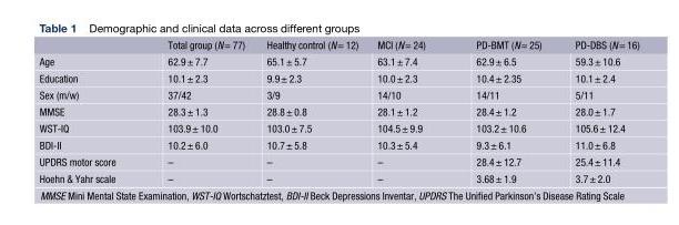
<table><thead><tr><td></td><td>Total group (N= 77)</td><td>Healthy control (N= 12)</td><td>MCI (N= 24)</td><td>PD-BMT (N= 25)</td><td>PD-DBS (N= 16)</td></tr></thead><tbody><tr><td>Age</td><td>62.9± 7.7</td><td>65.1± 5.7</td><td>63.1± 7.4</td><td>62.9± 6.5</td><td>59.3± 10.6</td></tr><tr><td>Education</td><td>10.1± 2.3</td><td>9.9± 2.3</td><td>10.0± 2.3</td><td>10.4± 2.35</td><td>10.1± 2.4</td></tr><tr><td>Sex (m/w)</td><td>37/42</td><td>3/9</td><td>14/10</td><td>14/11</td><td>5/11</td></tr><tr><td>MMSE</td><td>28.3± 1.3</td><td>28.8± 0.8</td><td>28.1± 1.2</td><td>28.4± 1.2</td><td>28.0± 1.7</td></tr><tr><td>WST-IQ</td><td>103.9± 10.0</td><td>103.0± 7.5</td><td>104.5± 9.9</td><td>103.2± 10.6</td><td>105.6± 12.4</td></tr><tr><td>BDI-II</td><td>10.2± 6.0</td><td>10.7± 5.8</td><td>10.3± 5.4</td><td>9.3± 6.1</td><td>11.0± 6.8</td></tr><tr><td>UPDRS motor score</td><td>–</td><td>–</td><td>–</td><td>28.4± 12.7</td><td>25.4± 11.4</td></tr><tr><td>Hoehn &amp; Yahr scale</td><td>–</td><td>–</td><td>–</td><td>3.68± 1.9</td><td>3.7± 2.0</td></tr></tbody></table>